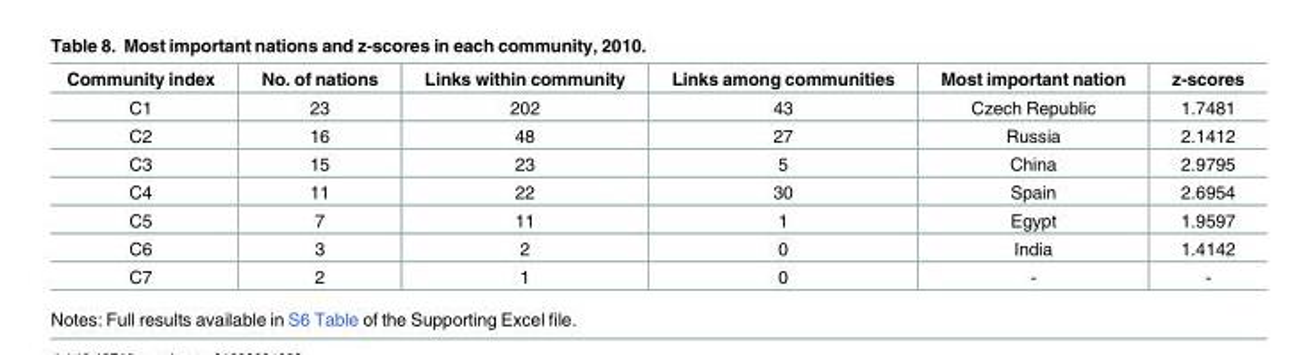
<table><thead><tr><td>Community index</td><td>No. of nations</td><td>Links within community</td><td>Links among communities</td><td>Most important nation</td><td>z-scores</td></tr></thead><tbody><tr><td>C1</td><td>23</td><td>202</td><td>43</td><td>Czech Republic</td><td>1.7481</td></tr><tr><td>C2</td><td>16</td><td>48</td><td>27</td><td>Russia</td><td>2.1412</td></tr><tr><td>C3</td><td>15</td><td>23</td><td>5</td><td>China</td><td>2.9795</td></tr><tr><td>C4</td><td>11</td><td>22</td><td>30</td><td>Spain</td><td>2.6954</td></tr><tr><td>C5</td><td>7</td><td>11</td><td>1</td><td>Egypt</td><td>1.9597</td></tr><tr><td>C6</td><td>3</td><td>2</td><td>0</td><td>India</td><td>1.4142</td></tr><tr><td>C7</td><td>2</td><td>1</td><td>0</td><td>-</td><td>-</td></tr></tbody></table>